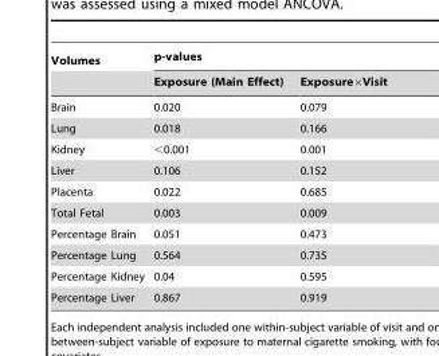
<table><thead><tr><td rowspan="2">Volumes</td><td colspan="2">p-values</td></tr><tr><td>Exposure (Main Effect)</td><td>Exposure×Visit</td></tr></thead><tbody><tr><td>Brain</td><td>0.020</td><td>0.079</td></tr><tr><td>Lung</td><td>0.018</td><td>0.166</td></tr><tr><td>Kidney</td><td>&lt;0.001</td><td>0.001</td></tr><tr><td>Liver</td><td>0.106</td><td>0.152</td></tr><tr><td>Placenta</td><td>0.022</td><td>0.685</td></tr><tr><td>Total Fetal</td><td>0.003</td><td>0.009</td></tr><tr><td>Percentage Brain</td><td>0.051</td><td>0.473</td></tr><tr><td>Percentage Lung</td><td>0.564</td><td>0.735</td></tr><tr><td>Percentage Kidney</td><td>0.04</td><td>0.595</td></tr><tr><td>Percentage Liver</td><td>0.867</td><td>0.919</td></tr></tbody></table>